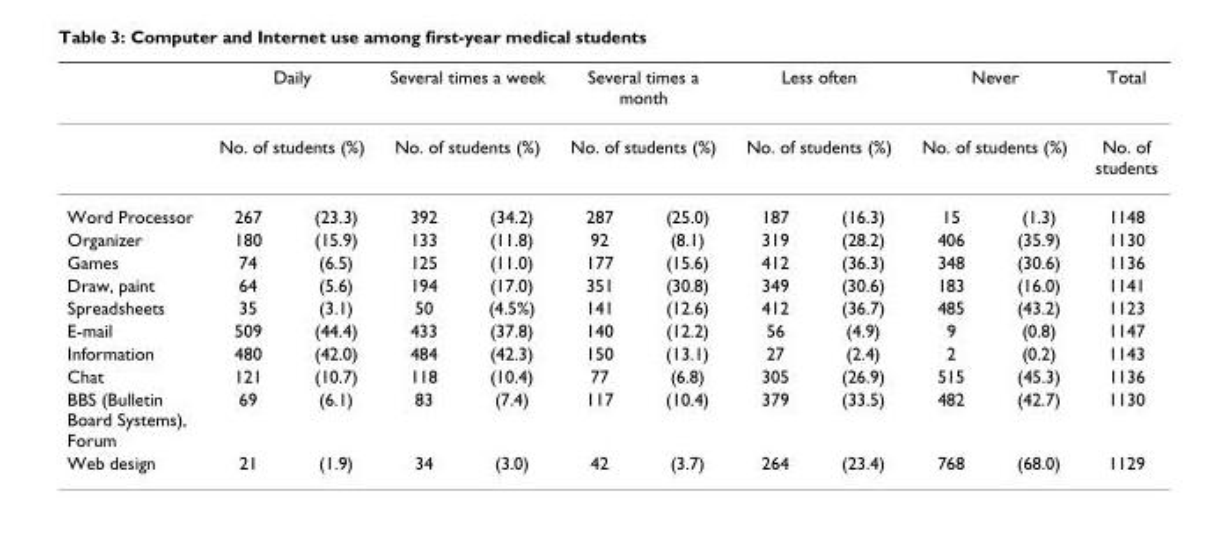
<table><thead><tr><td rowspan="3">Word Processor</td><td rowspan="2" colspan="2">Daily No. of students (%)</td><td rowspan="2" colspan="2">Several times a week No. of students (%)</td><td rowspan="2" colspan="2">Several times a month No. of students (%)</td><td rowspan="2" colspan="2">Less often No. of students (%)</td><td rowspan="2" colspan="2">Never No. of students (%)</td><td rowspan="3">Total No. of students 1148</td></tr><tr></tr><tr><td>267</td><td>(23.3)</td><td>392</td><td>(34.2)</td><td>287</td><td>(25.0)</td><td>187</td><td>(16.3)</td><td>15</td><td>(1.3)</td></tr></thead><tbody><tr><td>Organizer</td><td>180</td><td>(15.9)</td><td>133</td><td>(11.8)</td><td>92</td><td>(8.1)</td><td>319</td><td>(28.2)</td><td>406</td><td>(35.9)</td><td>1130</td></tr><tr><td>Games</td><td>74</td><td>(6.5)</td><td>125</td><td>(11.0)</td><td>177</td><td>(15.6)</td><td>412</td><td>(36.3)</td><td>348</td><td>(30.6)</td><td>1136</td></tr><tr><td>Draw, paint</td><td>64</td><td>(5.6)</td><td>194</td><td>(17.0)</td><td>351</td><td>(30.8)</td><td>349</td><td>(30.6)</td><td>183</td><td>(16.0)</td><td>1141</td></tr><tr><td>Spreadsheets</td><td>35</td><td>(3.1)</td><td>50</td><td>(4.5%)</td><td>141</td><td>(12.6)</td><td>412</td><td>(36.7)</td><td>485</td><td>(43.2)</td><td>1123</td></tr><tr><td>E-mail</td><td>509</td><td>(44.4)</td><td>433</td><td>(37.8)</td><td>140</td><td>(12.2)</td><td>56</td><td>(4.9)</td><td>9</td><td>(0.8)</td><td>1147</td></tr><tr><td>Information</td><td>480</td><td>(42.0)</td><td>484</td><td>(42.3)</td><td>150</td><td>(13.1)</td><td>27</td><td>(2.4)</td><td>2</td><td>(0.2)</td><td>1143</td></tr><tr><td>Chat</td><td>121</td><td>(10.7)</td><td>118</td><td>(10.4)</td><td>77</td><td>(6.8)</td><td>305</td><td>(26.9)</td><td>515</td><td>(45.3)</td><td>1136</td></tr><tr><td>BBS (Bulletin Board Systems), Forum</td><td>69</td><td>(6.1)</td><td>83</td><td>(7.4)</td><td>117</td><td>(10.4)</td><td>379</td><td>(33.5)</td><td>482</td><td>(42.7)</td><td>1130</td></tr><tr><td>Web design</td><td>21</td><td>(1.9)</td><td>34</td><td>(3.0)</td><td>42</td><td>(3.7)</td><td>264</td><td>(23.4)</td><td>768</td><td>(68.0)</td><td>1129</td></tr></tbody></table>